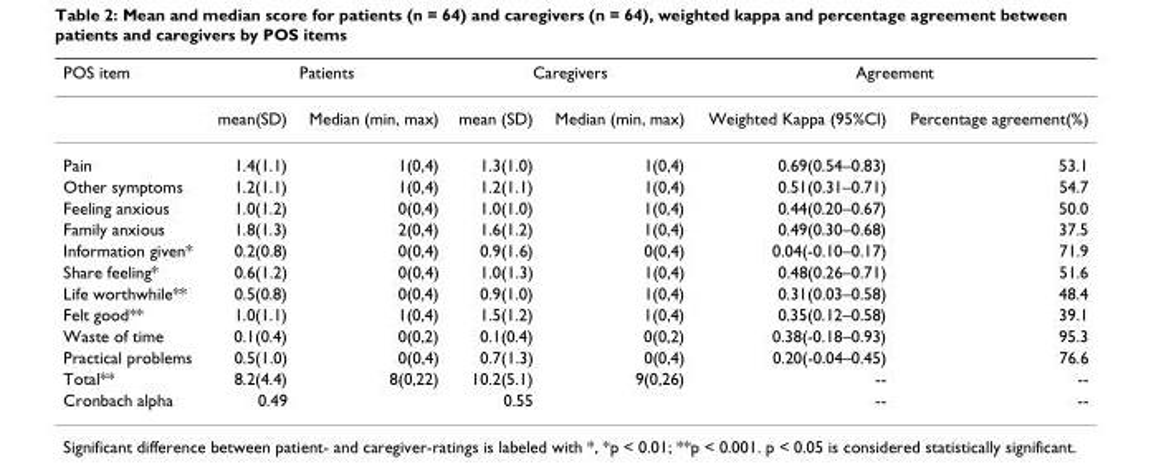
<table><thead><tr><td rowspan="2">POS item</td><td colspan="2">Patients</td><td colspan="2">Caregivers</td><td colspan="2">Agreement</td></tr><tr><td>mean(SD)</td><td>Median (min, max)</td><td>mean (SD)</td><td>Median (min, max)</td><td>Weighted Kappa (95%CI)</td><td>Percentage agreement(%)</td></tr></thead><tbody><tr><td>Pain</td><td>1.4(1.1)</td><td>1(0,4)</td><td>1.3(1.0)</td><td>1(0,4)</td><td>0.69(0.54–0.83)</td><td>53.1</td></tr><tr><td>Other symptoms</td><td>1.2(1.1)</td><td>1(0,4)</td><td>1.2(1.1)</td><td>1(0,4)</td><td>0.51(0.31–0.71)</td><td>54.7</td></tr><tr><td>Feeling anxious</td><td>1.0(1.2)</td><td>0(0,4)</td><td>1.0(1.0)</td><td>1(0,4)</td><td>0.44(0.20–0.67)</td><td>50.0</td></tr><tr><td>Family anxious</td><td>1.8(1.3)</td><td>2(0,4)</td><td>1.6(1.2)</td><td>1(0,4)</td><td>0.49(0.30–0.68)</td><td>37.5</td></tr><tr><td>Information given*</td><td>0.2(0.8)</td><td>0(0,4)</td><td>0.9(1.6)</td><td>0(0,4)</td><td>0.04(-0.10–0.17)</td><td>71.9</td></tr><tr><td>Share feeling*</td><td>0.6(1.2)</td><td>0(0,4)</td><td>1.0(1.3)</td><td>1(0,4)</td><td>0.48(0.26–0.71)</td><td>51.6</td></tr><tr><td>Life worthwhile**</td><td>0.5(0.8)</td><td>0(0,4)</td><td>0.9(1.0)</td><td>1(0,4)</td><td>0.31(0.03–0.58)</td><td>48.4</td></tr><tr><td>Felt good**</td><td>1.0(1.1)</td><td>1(0,4)</td><td>1.5(1.2)</td><td>1(0,4)</td><td>0.35(0.12–0.58)</td><td>39.1</td></tr><tr><td>Waste of time</td><td>0.1(0.4)</td><td>0(0,2)</td><td>0.1(0.4)</td><td>0(0,2)</td><td>0.38(-0.18–0.93)</td><td>95.3</td></tr><tr><td>Practical problems</td><td>0.5(1.0)</td><td>0(0,4)</td><td>0.7(1.3)</td><td>0(0,4)</td><td>0.20(-0.04–0.45)</td><td>76.6</td></tr><tr><td>Total**</td><td>8.2(4.4)</td><td>8(0,22)</td><td>10.2(5.1)</td><td>9(0,26)</td><td>--</td><td>--</td></tr><tr><td>Cronbach alpha</td><td>0.49</td><td></td><td>0.55</td><td></td><td>--</td><td>--</td></tr></tbody></table>